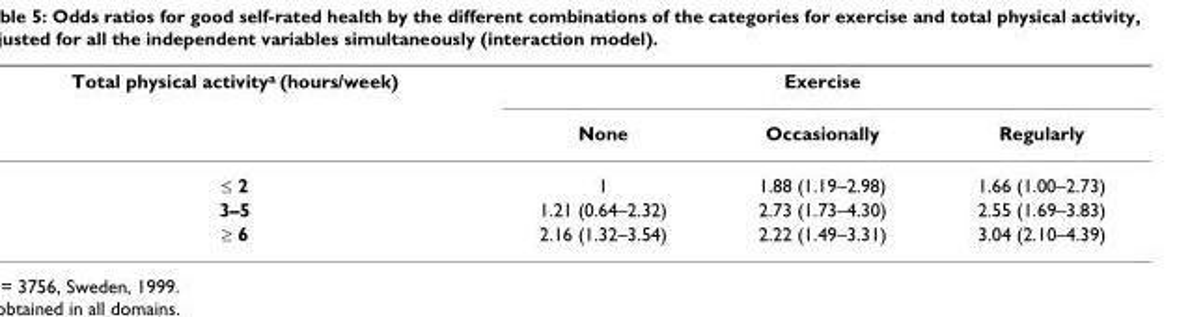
<table><thead><tr><td rowspan="2">Total physical activitya (hours/week)</td><td colspan="3">Exercise</td></tr><tr><td>None</td><td>Occasionally</td><td>Regularly</td></tr></thead><tbody><tr><td>≤ 2</td><td>1</td><td>1.88 (1.19–2.98)</td><td>1.66 (1.00–2.73)</td></tr><tr><td>3–5</td><td>1.21 (0.64–2.32)</td><td>2.73 (1.73–4.30)</td><td>2.55 (1.69–3.83)</td></tr><tr><td>≥ 6</td><td>2.16 (1.32–3.54)</td><td>2.22 (1.49–3.31)</td><td>3.04 (2.10–4.39)</td></tr></tbody></table>